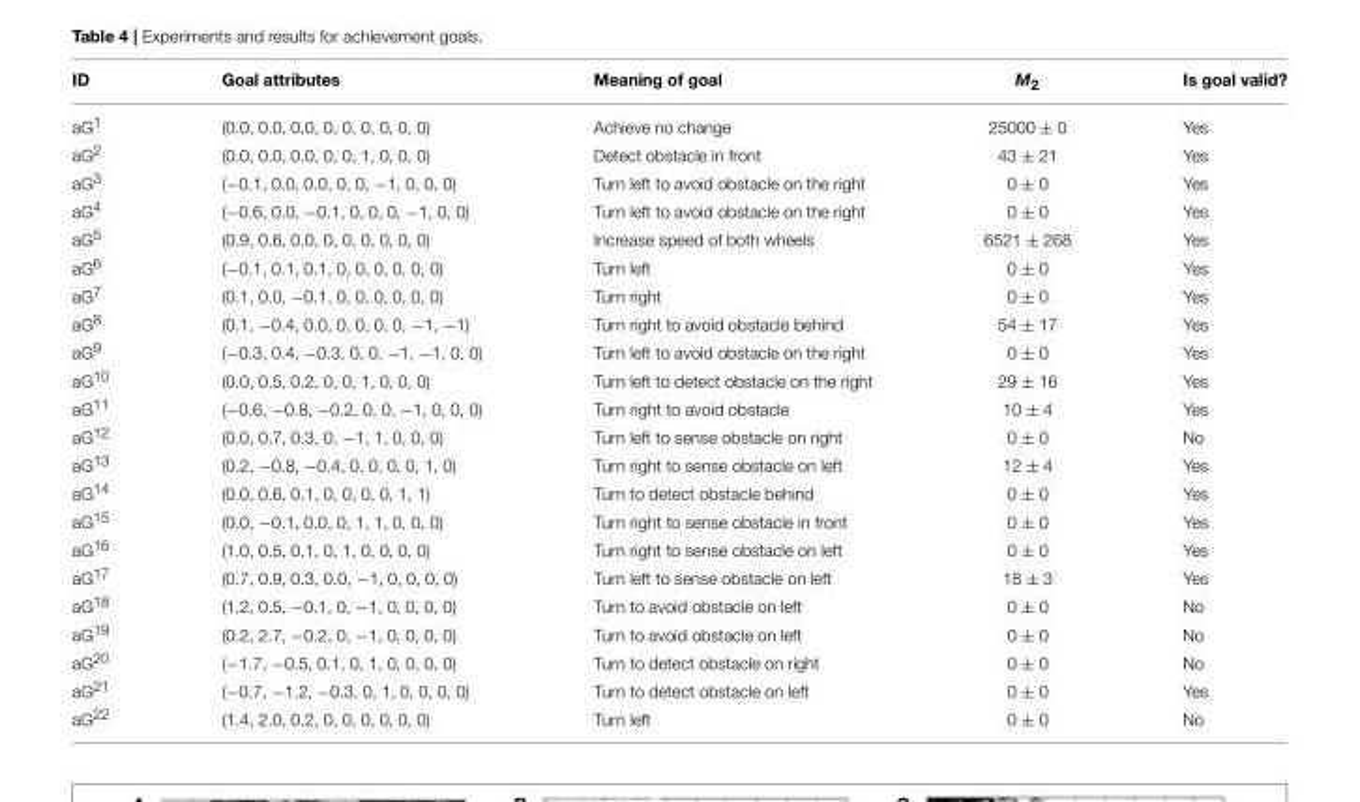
<table><thead><tr><td>ID</td><td>Goal attributes</td><td>Meaning of goal</td><td>M<sub>2</sub></td><td>Is goal valid?</td></tr></thead><tbody><tr><td>aG<sup>1</sup></td><td>(0.0, 0.0, 0.0, 0, 0, 0, 0, 0, 0)</td><td>Achieve no change</td><td>25000 ± 0</td><td>Yes</td></tr><tr><td>aG<sup>2</sup></td><td>(0.0, 0.0, 0.0, 0, 0, 1, 0, 0, 0)</td><td>Detect obstacle in front</td><td>43 ± 21</td><td>Yes</td></tr><tr><td>aG<sup>3</sup></td><td>(−0.1, 0.0, 0.0, 0, 0, −1, 0, 0, 0)</td><td>Turn left to avoid obstacle on the right</td><td>0 ± 0</td><td>Yes</td></tr><tr><td>aG<sup>4</sup></td><td>(−0.6, 0.0, −0.1, 0, 0, 0, −1, 0, 0)</td><td>Turn left to avoid obstacle on the right</td><td>0 ± 0</td><td>Yes</td></tr><tr><td>aG<sup>5</sup></td><td>(0.9, 0.6, 0.0, 0, 0, 0, 0, 0, 0)</td><td>Increase speed of both wheels</td><td>6521 ± 268</td><td>Yes</td></tr><tr><td>aG<sup>6</sup></td><td>(−0.1, 0.1, 0.1, 0, 0, 0, 0, 0, 0)</td><td>Turn left</td><td>0 ± 0</td><td>Yes</td></tr><tr><td>aG<sup>7</sup></td><td>(0.1, 0.0, −0.1, 0, 0, 0, 0, 0, 0)</td><td>Turn right</td><td>0 ± 0</td><td>Yes</td></tr><tr><td>aG<sup>8</sup></td><td>(0.1, −0.4, 0.0, 0, 0, 0, 0, −1, −1)</td><td>Turn right to avoid obstacle behind</td><td>54 ± 17</td><td>Yes</td></tr><tr><td>aG<sup>9</sup></td><td>(−0.3, 0.4, −0.3, 0, 0, −1, −1, 0, 0)</td><td>Turn left to avoid obstacle on the right</td><td>0 ± 0</td><td>Yes</td></tr><tr><td>aG<sup>10</sup></td><td>(0.0, 0.5, 0.2, 0, 0, 1, 0, 0, 0)</td><td>Turn left to detect obstacle on the right</td><td>29 ± 16</td><td>Yes</td></tr><tr><td>aG<sup>11</sup></td><td>(−0.6, −0.8, −0.2, 0, 0, −1, 0, 0, 0)</td><td>Turn right to avoid obstacle</td><td>10 ± 4</td><td>Yes</td></tr><tr><td>aG<sup>12</sup></td><td>(0.0, 0.7, 0.3, 0, −1, 1, 0, 0, 0)</td><td>Turn left to sense obstacle on right</td><td>0 ± 0</td><td>No</td></tr><tr><td>aG<sup>13</sup></td><td>(0.2, −0.8, −0.4, 0, 0, 0, 0, 1, 0)</td><td>Turn right to sense obstacle on left</td><td>12 ± 4</td><td>Yes</td></tr><tr><td>aG<sup>14</sup></td><td>(0.0, 0.6, 0.1, 0, 0, 0, 0, 1, 1)</td><td>Turn to detect obstacle behind</td><td>0 ± 0</td><td>Yes</td></tr><tr><td>aG<sup>15</sup></td><td>(0.0, −0.1, 0.0, 0, 1, 1, 0, 0, 0)</td><td>Turn right to sense obstacle in front</td><td>0 ± 0</td><td>Yes</td></tr><tr><td>aG<sup>16</sup></td><td>(1.0, 0.5, 0.1, 0, 1, 0, 0, 0, 0)</td><td>Turn right to sense obstacle on left</td><td>0 ± 0</td><td>Yes</td></tr><tr><td>aG<sup>17</sup></td><td>(0.7, 0.9, 0.3, 0.0, −1, 0, 0, 0, 0)</td><td>Turn left to sense obstacle on left</td><td>18 ± 3</td><td>Yes</td></tr><tr><td>aG<sup>18</sup></td><td>(1.2, 0.5, −0.1, 0, −1, 0, 0, 0, 0)</td><td>Turn to avoid obstacle on left</td><td>0 ± 0</td><td>No</td></tr><tr><td>aG<sup>19</sup></td><td>(0.2, 2.7, −0.2, 0, −1, 0, 0, 0, 0)</td><td>Turn to avoid obstacle on left</td><td>0 ± 0</td><td>No</td></tr><tr><td>aG<sup>20</sup></td><td>(−1.7, −0.5, 0.1, 0, 1, 0, 0, 0, 0)</td><td>Turn to detect obstacle on right</td><td>0 ± 0</td><td>No</td></tr><tr><td>aG<sup>21</sup></td><td>(−0.7, −1.2, −0.3, 0, 1, 0, 0, 0, 0)</td><td>Turn to detect obstacle on left</td><td>0 ± 0</td><td>Yes</td></tr><tr><td>aG<sup>22</sup></td><td>(1.4, 2.0, 0.2, 0, 0, 0, 0, 0, 0)</td><td>Turn left</td><td>0 ± 0</td><td>No</td></tr></tbody></table>